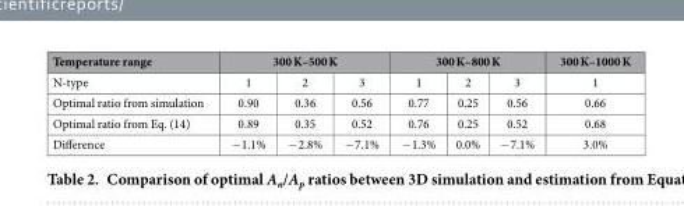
<table><thead><tr><td rowspan="2">Temperature range N-type</td><td colspan="3">300 K–500 K</td><td colspan="3">300 K–800 K</td><td rowspan="2">300 K–1000 K 1</td></tr><tr><td>1</td><td>2</td><td>3</td><td>1</td><td>2</td><td>3</td></tr></thead><tbody><tr><td>Optimal ratio from simulation</td><td>0.90</td><td>0.36</td><td>0.56</td><td>0.77</td><td>0.25</td><td>0.56</td><td>0.66</td></tr><tr><td>Optimal ratio from Eq. (14)</td><td>0.89</td><td>0.35</td><td>0.52</td><td>0.76</td><td>0.25</td><td>0.52</td><td>0.68</td></tr><tr><td>Difference</td><td>− 1.1%</td><td>− 2.8%</td><td>− 7.1%</td><td>− 1.3%</td><td>0.0%</td><td>− 7.1%</td><td>3.0%</td></tr></tbody></table>